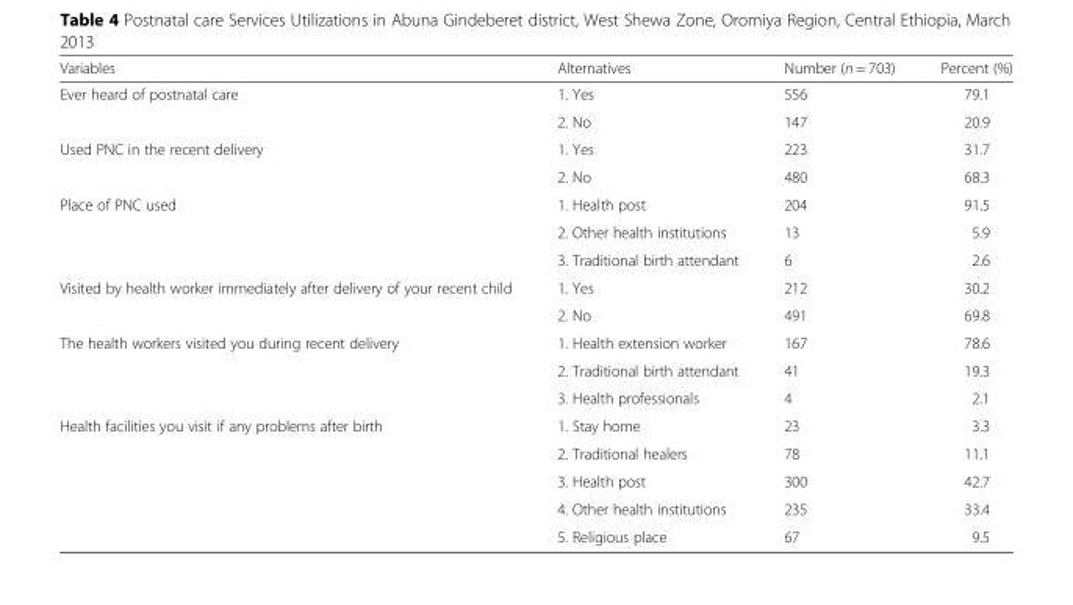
<table><thead><tr><td>Variables</td><td>Alternatives</td><td>Number (n = 703)</td><td>Percent (%)</td></tr></thead><tbody><tr><td rowspan="2">Ever heard of postnatal care</td><td>1. Yes</td><td>556</td><td>79.1</td></tr><tr><td>2. No</td><td>147</td><td>20.9</td></tr><tr><td rowspan="2">Used PNC in the recent delivery</td><td>1. Yes</td><td>223</td><td>31.7</td></tr><tr><td>2. No</td><td>480</td><td>68.3</td></tr><tr><td rowspan="3">Place of PNC used</td><td>1. Health post</td><td>204</td><td>91.5</td></tr><tr><td>2. Other health institutions</td><td>13</td><td>5.9</td></tr><tr><td>3. Traditional birth attendant</td><td>6</td><td>2.6</td></tr><tr><td rowspan="2">Visited by health worker immediately after delivery of your recent child</td><td>1. Yes</td><td>212</td><td>30.2</td></tr><tr><td>2. No</td><td>491</td><td>69.8</td></tr><tr><td rowspan="3">The health workers visited you during recent delivery</td><td>1. Health extension worker</td><td>167</td><td>78.6</td></tr><tr><td>2. Traditional birth attendant</td><td>41</td><td>19.3</td></tr><tr><td>3. Health professionals</td><td>4</td><td>2.1</td></tr><tr><td rowspan="5">Health facilities you visit if any problems after birth</td><td>1. Stay home</td><td>23</td><td>3.3</td></tr><tr><td>2. Traditional healers</td><td>78</td><td>11.1</td></tr><tr><td>3. Health post</td><td>300</td><td>42.7</td></tr><tr><td>4. Other health institutions</td><td>235</td><td>33.4</td></tr><tr><td>5. Religious place</td><td>67</td><td>9.5</td></tr></tbody></table>